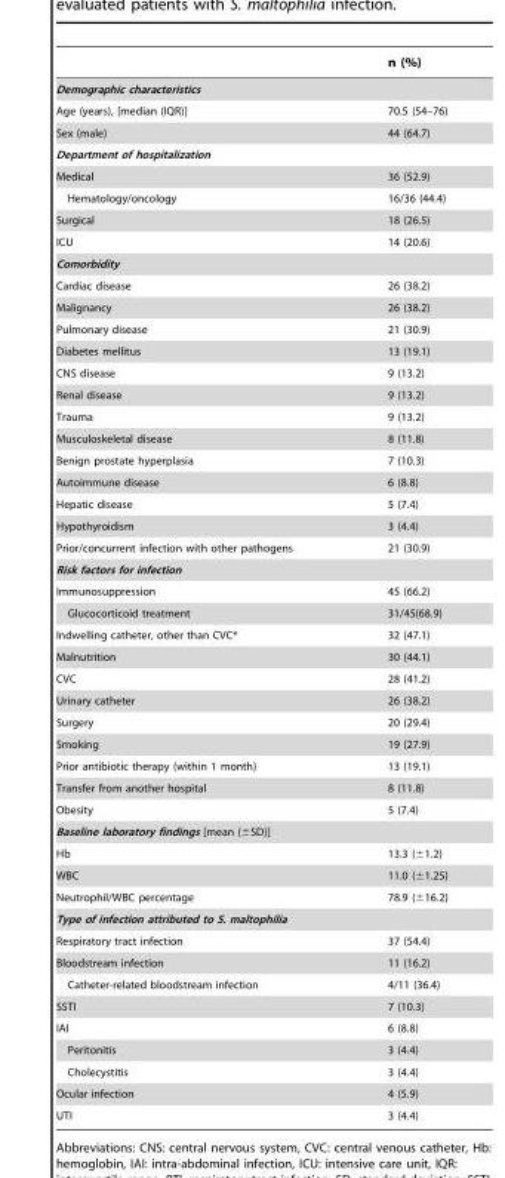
<table><thead><tr><td></td><td>n (%)</td></tr></thead><tbody><tr><td colspan="2">Demographic characteristics</td></tr><tr><td>Age (years), [median (IQR)]</td><td>70.5 (54–76)</td></tr><tr><td>Sex (male)</td><td>44 (64.7)</td></tr><tr><td colspan="2">Department of hospitalization</td></tr><tr><td>Medical</td><td>36 (52.9)</td></tr><tr><td>Hematology/oncology</td><td>16/36 (44.4)</td></tr><tr><td>Surgical</td><td>18 (26.5)</td></tr><tr><td>ICU</td><td>14 (20.6)</td></tr><tr><td colspan="2">Comorbidity</td></tr><tr><td>Cardiac disease</td><td>26 (38.2)</td></tr><tr><td>Malignancy</td><td>26 (38.2)</td></tr><tr><td>Pulmonary disease</td><td>21 (30.9)</td></tr><tr><td>Diabetes mellitus</td><td>13 (19.1)</td></tr><tr><td>CNS disease</td><td>9 (13.2)</td></tr><tr><td>Renal disease</td><td>9 (13.2)</td></tr><tr><td>Trauma</td><td>9 (13.2)</td></tr><tr><td>Musculoskeletal disease</td><td>8 (11.8)</td></tr><tr><td>Benign prostate hyperplasia</td><td>7 (10.3)</td></tr><tr><td>Autoimmune disease</td><td>6 (8.8)</td></tr><tr><td>Hepatic disease</td><td>5 (7.4)</td></tr><tr><td>Hypothyroidism</td><td>3 (4.4)</td></tr><tr><td>Prior/concurrent infection with other pathogens</td><td>21 (30.9)</td></tr><tr><td colspan="2">Risk factors for infection</td></tr><tr><td>Immunosuppression</td><td>45 (66.2)</td></tr><tr><td>Glucocorticoid treatment</td><td>31/45(68.9)</td></tr><tr><td>Indwelling catheter, other than CVC*</td><td>32 (47.1)</td></tr><tr><td>Malnutrition</td><td>30 (44.1)</td></tr><tr><td>CVC</td><td>28 (41.2)</td></tr><tr><td>Urinary catheter</td><td>26 (38.2)</td></tr><tr><td>Surgery</td><td>20 (29.4)</td></tr><tr><td>Smoking</td><td>19 (27.9)</td></tr><tr><td>Prior antibiotic therapy (within 1 month)</td><td>13 (19.1)</td></tr><tr><td>Transfer from another hospital</td><td>8 (11.8)</td></tr><tr><td>Obesity</td><td>5 (7.4)</td></tr><tr><td colspan="2">Baseline laboratory findings [mean (±SD)]</td></tr><tr><td>Hb</td><td>13.3 (±1.2)</td></tr><tr><td>WBC</td><td>11.0 (±1.25)</td></tr><tr><td>Neutrophil/WBC percentage</td><td>78.9 (±16.2)</td></tr><tr><td colspan="2">Type of infection attributed to S. maltophilia</td></tr><tr><td>Respiratory tract infection</td><td>37 (54.4)</td></tr><tr><td>Bloodstream infection</td><td>11 (16.2)</td></tr><tr><td>Catheter-related bloodstream infection</td><td>4/11 (36.4)</td></tr><tr><td>SSTI</td><td>7 (10.3)</td></tr><tr><td>IAI</td><td>6 (8.8)</td></tr><tr><td>Peritonitis</td><td>3 (4.4)</td></tr><tr><td>Cholecystitis</td><td>3 (4.4)</td></tr><tr><td>Ocular infection</td><td>4 (5.9)</td></tr><tr><td>UTI</td><td>3 (4.4)</td></tr></tbody></table>